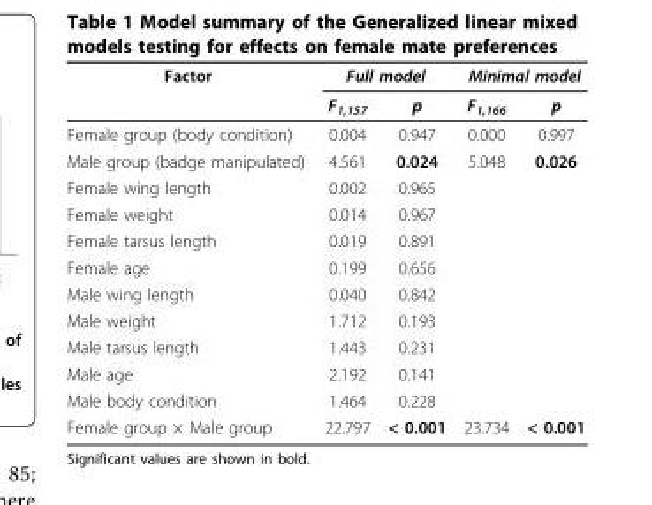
<table><thead><tr><td rowspan="2">Factor</td><td colspan="2">Full model</td><td colspan="2">Minimal model</td></tr><tr><td>F<sub>1,157</sub></td><td>p</td><td>F<sub>1,166</sub></td><td>p</td></tr></thead><tbody><tr><td>Female group (body condition)</td><td>0.004</td><td>0.947</td><td>0.000</td><td>0.997</td></tr><tr><td>Male group (badge manipulated)</td><td>4.561</td><td>0.024</td><td>5.048</td><td>0.026</td></tr><tr><td>Female wing length</td><td>0.002</td><td>0.965</td><td></td><td></td></tr><tr><td>Female weight</td><td>0.014</td><td>0.967</td><td></td><td></td></tr><tr><td>Female tarsus length</td><td>0.019</td><td>0.891</td><td></td><td></td></tr><tr><td>Female age</td><td>0.199</td><td>0.656</td><td></td><td></td></tr><tr><td>Male wing length</td><td>0.040</td><td>0.842</td><td></td><td></td></tr><tr><td>Male weight</td><td>1.712</td><td>0.193</td><td></td><td></td></tr><tr><td>Male tarsus length</td><td>1.443</td><td>0.231</td><td></td><td></td></tr><tr><td>Male age</td><td>2.192</td><td>0.141</td><td></td><td></td></tr><tr><td>Male body condition</td><td>1.464</td><td>0.228</td><td></td><td></td></tr><tr><td>Female group × Male group</td><td>22.797</td><td>&lt; 0.001</td><td>23.734</td><td>&lt; 0.001</td></tr></tbody></table>